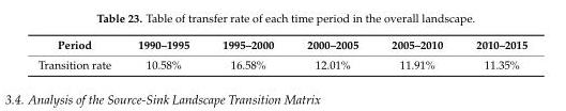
<table><thead><tr><td>Period</td><td>1990–1995</td><td>1995–2000</td><td>2000–2005</td><td>2005–2010</td><td>2010–2015</td></tr></thead><tbody><tr><td>Transition rate</td><td>10.58%</td><td>16.58%</td><td>12.01%</td><td>11.91%</td><td>11.35%</td></tr></tbody></table>